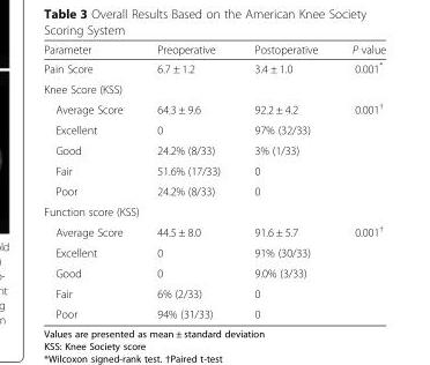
<table><thead><tr><td>Parameter</td><td>Preoperative</td><td>Postoperative</td><td>P value</td></tr></thead><tbody><tr><td>Pain Score</td><td>6.7 ± 1.2</td><td>3.4 ± 1.0</td><td>0.001*</td></tr><tr><td colspan="4">Knee Score (KSS)</td></tr><tr><td>Average Score</td><td>64.3 ± 9.6</td><td>92.2 ± 4.2</td><td>0.001<sup>†</sup></td></tr><tr><td>Excellent</td><td>0</td><td>97% (32/33)</td><td></td></tr><tr><td>Good</td><td>24.2% (8/33)</td><td>3% (1/33)</td><td></td></tr><tr><td>Fair</td><td>51.6% (17/33)</td><td>0</td><td></td></tr><tr><td>Poor</td><td>24.2% (8/33)</td><td>0</td><td></td></tr><tr><td colspan="4">Function score (KSS)</td></tr><tr><td>Average Score</td><td>44.5 ± 8.0</td><td>91.6 ± 5.7</td><td>0.001<sup>†</sup></td></tr><tr><td>Excellent</td><td>0</td><td>91% (30/33)</td><td></td></tr><tr><td>Good</td><td>0</td><td>9.0% (3/33)</td><td></td></tr><tr><td>Fair</td><td>6% (2/33)</td><td>0</td><td></td></tr><tr><td>Poor</td><td>94% (31/33)</td><td>0</td><td></td></tr></tbody></table>